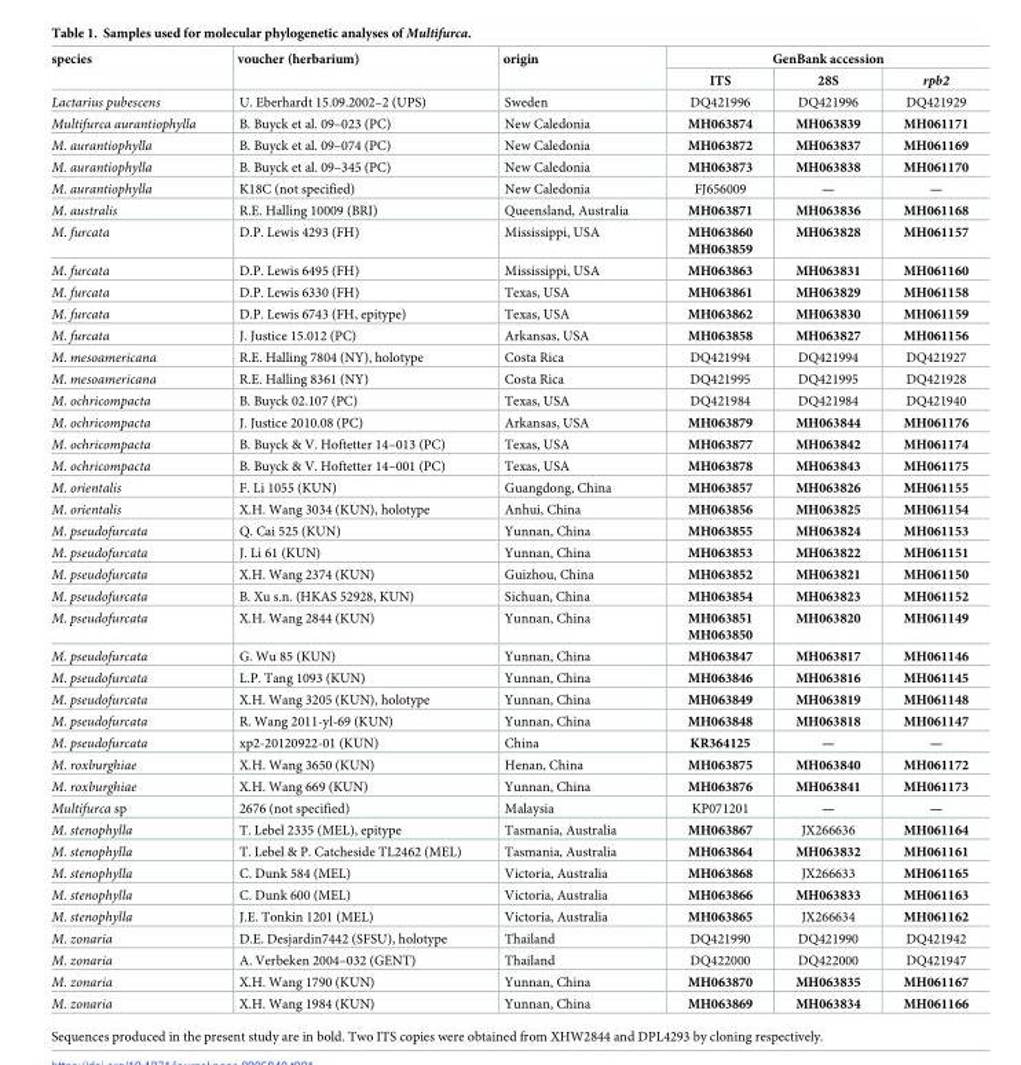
<table><thead><tr><td rowspan="2">species</td><td rowspan="2">voucher (herbarium)</td><td rowspan="2">origin</td><td colspan="3">GenBank accession</td></tr><tr><td>ITS</td><td>28S</td><td>rpb2</td></tr></thead><tbody><tr><td>Lactarius pubescens</td><td>U. Eberhardt 15.09.2002–2 (UPS)</td><td>Sweden</td><td>DQ421996</td><td>DQ421996</td><td>DQ421929</td></tr><tr><td>Multifurca aurantiophylla</td><td>B. Buyck et al. 09–023 (PC)</td><td>New Caledonia</td><td>MH063874</td><td>MH063839</td><td>MH061171</td></tr><tr><td>M. aurantiophylla</td><td>B. Buyck et al. 09–074 (PC)</td><td>New Caledonia</td><td>MH063872</td><td>MH063837</td><td>MH061169</td></tr><tr><td>M. aurantiophylla</td><td>B. Buyck et al. 09–345 (PC)</td><td>New Caledonia</td><td>MH063873</td><td>MH063838</td><td>MH061170</td></tr><tr><td>M. aurantiophylla</td><td>K18C (not specified)</td><td>New Caledonia</td><td>FJ656009</td><td>—</td><td>—</td></tr><tr><td>M. australis</td><td>R.E. Halling 10009 (BRI)</td><td>Queensland, Australia</td><td>MH063871</td><td>MH063836</td><td>MH061168</td></tr><tr><td>M. furcata</td><td>D.P. Lewis 4293 (FH)</td><td>Mississippi, USA</td><td>MH063860 MH063859</td><td>MH063828</td><td>MH061157</td></tr><tr><td>M. furcata</td><td>D.P. Lewis 6495 (FH)</td><td>Mississippi, USA</td><td>MH063863</td><td>MH063831</td><td>MH061160</td></tr><tr><td>M. furcata</td><td>D.P. Lewis 6330 (FH)</td><td>Texas, USA</td><td>MH063861</td><td>MH063829</td><td>MH061158</td></tr><tr><td>M. furcata</td><td>D.P. Lewis 6743 (FH, epitype)</td><td>Texas, USA</td><td>MH063862</td><td>MH063830</td><td>MH061159</td></tr><tr><td>M. furcata</td><td>J. Justice 15.012 (PC)</td><td>Arkansas, USA</td><td>MH063858</td><td>MH063827</td><td>MH061156</td></tr><tr><td>M. mesoamericana</td><td>R.E. Halling 7804 (NY), holotype</td><td>Costa Rica</td><td>DQ421994</td><td>DQ421994</td><td>DQ421927</td></tr><tr><td>M. mesoamericana</td><td>R.E. Halling 8361 (NY)</td><td>Costa Rica</td><td>DQ421995</td><td>DQ421995</td><td>DQ421928</td></tr><tr><td>M. ochricompacta</td><td>B. Buyck 02.107 (PC)</td><td>Texas, USA</td><td>DQ421984</td><td>DQ421984</td><td>DQ421940</td></tr><tr><td>M. ochricompacta</td><td>J. Justice 2010.08 (PC)</td><td>Arkansas, USA</td><td>MH063879</td><td>MH063844</td><td>MH061176</td></tr><tr><td>M. ochricompacta</td><td>B. Buyck &amp; V. Hoftetter 14–013 (PC)</td><td>Texas, USA</td><td>MH063877</td><td>MH063842</td><td>MH061174</td></tr><tr><td>M. ochricompacta</td><td>B. Buyck &amp; V. Hoftetter 14–001 (PC)</td><td>Texas, USA</td><td>MH063878</td><td>MH063843</td><td>MH061175</td></tr><tr><td>M. orientalis</td><td>F. Li 1055 (KUN)</td><td>Guangdong, China</td><td>MH063857</td><td>MH063826</td><td>MH061155</td></tr><tr><td>M. orientalis</td><td>X.H. Wang 3034 (KUN), holotype</td><td>Anhui, China</td><td>MH063856</td><td>MH063825</td><td>MH061154</td></tr><tr><td>M. pseudofurcata</td><td>Q. Cai 525 (KUN)</td><td>Yunnan, China</td><td>MH063855</td><td>MH063824</td><td>MH061153</td></tr><tr><td>M. pseudofurcata</td><td>J. Li 61 (KUN)</td><td>Yunnan, China</td><td>MH063853</td><td>MH063822</td><td>MH061151</td></tr><tr><td>M. pseudofurcata</td><td>X.H. Wang 2374 (KUN)</td><td>Guizhou, China</td><td>MH063852</td><td>MH063821</td><td>MH061150</td></tr><tr><td>M. pseudofurcata</td><td>B. Xu s.n. (HKAS 52928, KUN)</td><td>Sichuan, China</td><td>MH063854</td><td>MH063823</td><td>MH061152</td></tr><tr><td>M. pseudofurcata</td><td>X.H. Wang 2844 (KUN)</td><td>Yunnan, China</td><td>MH063851 MH063850</td><td>MH063820</td><td>MH061149</td></tr><tr><td>M. pseudofurcata</td><td>G. Wu 85 (KUN)</td><td>Yunnan, China</td><td>MH063847</td><td>MH063817</td><td>MH061146</td></tr><tr><td>M. pseudofurcata</td><td>L.P. Tang 1093 (KUN)</td><td>Yunnan, China</td><td>MH063846</td><td>MH063816</td><td>MH061145</td></tr><tr><td>M. pseudofurcata</td><td>X.H. Wang 3205 (KUN), holotype</td><td>Yunnan, China</td><td>MH063849</td><td>MH063819</td><td>MH061148</td></tr><tr><td>M. pseudofurcata</td><td>R. Wang 2011-yl-69 (KUN)</td><td>Yunnan, China</td><td>MH063848</td><td>MH063818</td><td>MH061147</td></tr><tr><td>M. pseudofurcata</td><td>xp2-20120922-01 (KUN)</td><td>China</td><td>KR364125</td><td>—</td><td>—</td></tr><tr><td>M. roxburghiae</td><td>X.H. Wang 3650 (KUN)</td><td>Henan, China</td><td>MH063875</td><td>MH063840</td><td>MH061172</td></tr><tr><td>M. roxburghiae</td><td>X.H. Wang 669 (KUN)</td><td>Yunnan, China</td><td>MH063876</td><td>MH063841</td><td>MH061173</td></tr><tr><td>Multifurca sp</td><td>2676 (not specified)</td><td>Malaysia</td><td>KP071201</td><td>—</td><td>—</td></tr><tr><td>M. stenophylla</td><td>T. Lebel 2335 (MEL), epitype</td><td>Tasmania, Australia</td><td>MH063867</td><td>JX266636</td><td>MH061164</td></tr><tr><td>M. stenophylla</td><td>T. Lebel &amp; P. Catcheside TL2462 (MEL)</td><td>Tasmania, Australia</td><td>MH063864</td><td>MH063832</td><td>MH061161</td></tr><tr><td>M. stenophylla</td><td>C. Dunk 584 (MEL)</td><td>Victoria, Australia</td><td>MH063868</td><td>JX266633</td><td>MH061165</td></tr><tr><td>M. stenophylla</td><td>C. Dunk 600 (MEL)</td><td>Victoria, Australia</td><td>MH063866</td><td>MH063833</td><td>MH061163</td></tr><tr><td>M. stenophylla</td><td>J.E. Tonkin 1201 (MEL)</td><td>Victoria, Australia</td><td>MH063865</td><td>JX266634</td><td>MH061162</td></tr><tr><td>M. zonaria</td><td>D.E. Desjardin7442 (SFSU), holotype</td><td>Thailand</td><td>DQ421990</td><td>DQ421990</td><td>DQ421942</td></tr><tr><td>M. zonaria</td><td>A. Verbeken 2004–032 (GENT)</td><td>Thailand</td><td>DQ422000</td><td>DQ422000</td><td>DQ421947</td></tr><tr><td>M. zonaria</td><td>X.H. Wang 1790 (KUN)</td><td>Yunnan, China</td><td>MH063870</td><td>MH063835</td><td>MH061167</td></tr><tr><td>M. zonaria</td><td>X.H. Wang 1984 (KUN)</td><td>Yunnan, China</td><td>MH063869</td><td>MH063834</td><td>MH061166</td></tr></tbody></table>